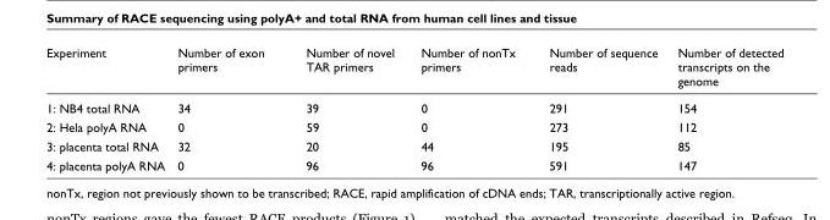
<table><thead><tr><td>Experiment</td><td>Number of exon primers</td><td>Number of novel TAR primers</td><td>Number of nonTx primers</td><td>Number of sequence reads</td><td>Number of detected transcripts on the genome</td></tr></thead><tbody><tr><td>1: NB4 total RNA</td><td>34</td><td>39</td><td>0</td><td>291</td><td>154</td></tr><tr><td>2: Hela polyA RNA</td><td>0</td><td>59</td><td>0</td><td>273</td><td>112</td></tr><tr><td>3: placenta total RNA</td><td>32</td><td>20</td><td>44</td><td>195</td><td>85</td></tr><tr><td>4: placenta polyA RNA</td><td>0</td><td>96</td><td>96</td><td>591</td><td>147</td></tr></tbody></table>